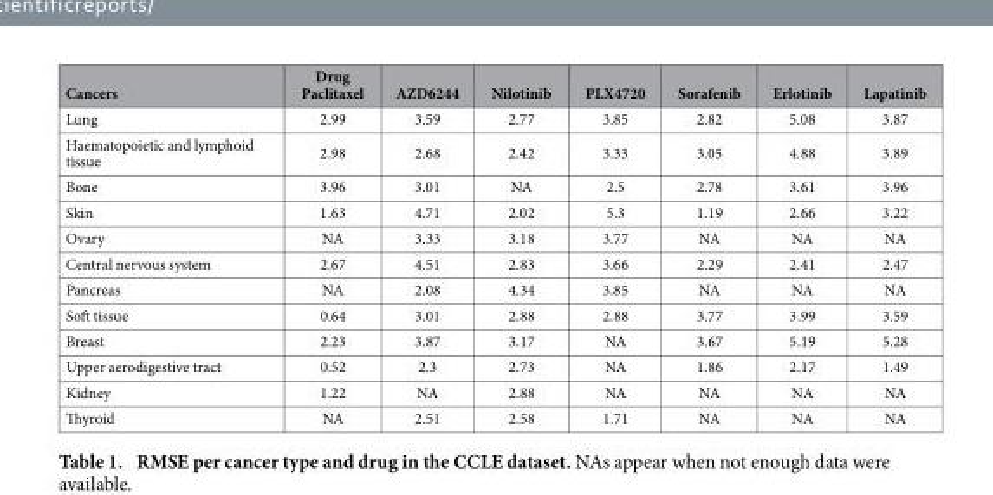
<table><thead><tr><td>Cancers</td><td>Drug Paclitaxel</td><td>AZD6244</td><td>Nilotinib</td><td>PLX4720</td><td>Sorafenib</td><td>Erlotinib</td><td>Lapatinib</td></tr></thead><tbody><tr><td>Lung</td><td>2.99</td><td>3.59</td><td>2.77</td><td>3.85</td><td>2.82</td><td>5.08</td><td>3.87</td></tr><tr><td>Haematopoietic and lymphoid tissue</td><td>2.98</td><td>2.68</td><td>2.42</td><td>3.33</td><td>3.05</td><td>4.88</td><td>3.89</td></tr><tr><td>Bone</td><td>3.96</td><td>3.01</td><td>NA</td><td>2.5</td><td>2.78</td><td>3.61</td><td>3.96</td></tr><tr><td>Skin</td><td>1.63</td><td>4.71</td><td>2.02</td><td>5.3</td><td>1.19</td><td>2.66</td><td>3.22</td></tr><tr><td>Ovary</td><td>NA</td><td>3.33</td><td>3.18</td><td>3.77</td><td>NA</td><td>NA</td><td>NA</td></tr><tr><td>Central nervous system</td><td>2.67</td><td>4.51</td><td>2.83</td><td>3.66</td><td>2.29</td><td>2.41</td><td>2.47</td></tr><tr><td>Pancreas</td><td>NA</td><td>2.08</td><td>4.34</td><td>3.85</td><td>NA</td><td>NA</td><td>NA</td></tr><tr><td>Soft tissue</td><td>0.64</td><td>3.01</td><td>2.88</td><td>2.88</td><td>3.77</td><td>3.99</td><td>3.59</td></tr><tr><td>Breast</td><td>2.23</td><td>3.87</td><td>3.17</td><td>NA</td><td>3.67</td><td>5.19</td><td>5.28</td></tr><tr><td>Upper aerodigestive tract</td><td>0.52</td><td>2.3</td><td>2.73</td><td>NA</td><td>1.86</td><td>2.17</td><td>1.49</td></tr><tr><td>Kidney</td><td>1.22</td><td>NA</td><td>2.88</td><td>NA</td><td>NA</td><td>NA</td><td>NA</td></tr><tr><td>Thyroid</td><td>NA</td><td>2.51</td><td>2.58</td><td>1.71</td><td>NA</td><td>NA</td><td>NA</td></tr></tbody></table>